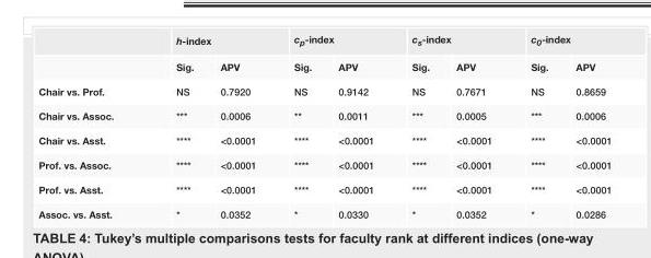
<table><thead><tr><td rowspan="2"></td><td colspan="2">h-index</td><td colspan="2">c<sub>p</sub>-index</td><td colspan="2">c<sub>s</sub>-index</td><td colspan="2">c<sub>0</sub>-index</td></tr><tr><td>Sig.</td><td>APV</td><td>Sig.</td><td>APV</td><td>Sig.</td><td>APV</td><td>Sig.</td><td>APV</td></tr></thead><tbody><tr><td>Chair vs. Prof.</td><td>NS</td><td>0.7920</td><td>NS</td><td>0.9142</td><td>NS</td><td>0.7671</td><td>NS</td><td>0.8659</td></tr><tr><td>Chair vs. Assoc.</td><td>***</td><td>0.0006</td><td>**</td><td>0.0011</td><td>***</td><td>0.0005</td><td>***</td><td>0.0006</td></tr><tr><td>Chair vs. Asst.</td><td>****</td><td>&lt;0.0001</td><td>****</td><td>&lt;0.0001</td><td>****</td><td>&lt;0.0001</td><td>****</td><td>&lt;0.0001</td></tr><tr><td>Prof. vs. Assoc.</td><td>****</td><td>&lt;0.0001</td><td>****</td><td>&lt;0.0001</td><td>****</td><td>&lt;0.0001</td><td>****</td><td>&lt;0.0001</td></tr><tr><td>Prof. vs. Asst.</td><td>****</td><td>&lt;0.0001</td><td>****</td><td>&lt;0.0001</td><td>****</td><td>&lt;0.0001</td><td>****</td><td>&lt;0.0001</td></tr><tr><td>Assoc. vs. Asst.</td><td>*</td><td>0.0352</td><td>*</td><td>0.0330</td><td>*</td><td>0.0352</td><td>*</td><td>0.0286</td></tr></tbody></table>